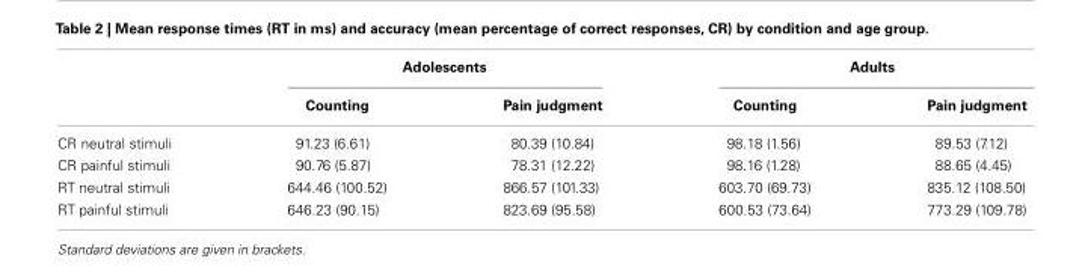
<table><thead><tr><td rowspan="2"></td><td colspan="2">Adolescents</td><td colspan="2">Adults</td></tr><tr><td>Counting</td><td>Pain judgment</td><td>Counting</td><td>Pain judgment</td></tr></thead><tbody><tr><td>CR neutral stimuli</td><td>91.23 (6.61)</td><td>80.39 (10.84)</td><td>98.18 (1.56)</td><td>89.53 (7.12)</td></tr><tr><td>CR painful stimuli</td><td>90.76 (5.87)</td><td>78.31 (12.22)</td><td>98.16 (1.28)</td><td>88.65 (4.45)</td></tr><tr><td>RT neutral stimuli</td><td>644.46 (100.52)</td><td>866.57 (101.33)</td><td>603.70 (69.73)</td><td>835.12 (108.50)</td></tr><tr><td>RT painful stimuli</td><td>646.23 (90.15)</td><td>823.69 (95.58)</td><td>600.53 (73.64)</td><td>773.29 (109.78)</td></tr></tbody></table>